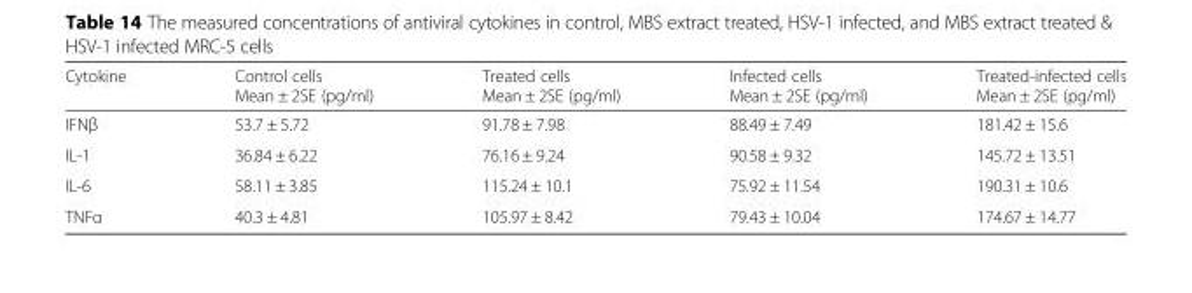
<table><thead><tr><td>Cytokine</td><td>Control cells Mean ± 2SE (pg/ml)</td><td>Treated cells Mean ± 2SE (pg/ml)</td><td>Infected cells Mean ± 2SE (pg/ml)</td><td>Treated-infected cells Mean ± 2SE (pg/ml)</td></tr></thead><tbody><tr><td>IFNβ</td><td>53.7 ± 5.72</td><td>91.78 ± 7.98</td><td>88.49 ± 7.49</td><td>181.42 ± 15.6</td></tr><tr><td>IL-1</td><td>36.84 ± 6.22</td><td>76.16 ± 9.24</td><td>90.58 ± 9.32</td><td>145.72 ± 13.51</td></tr><tr><td>IL-6</td><td>58.11 ± 3.85</td><td>115.24 ± 10.1</td><td>75.92 ± 11.54</td><td>190.31 ± 10.6</td></tr><tr><td>TNFα</td><td>40.3 ± 4.81</td><td>105.97 ± 8.42</td><td>79.43 ± 10.04</td><td>174.67 ± 14.77</td></tr></tbody></table>